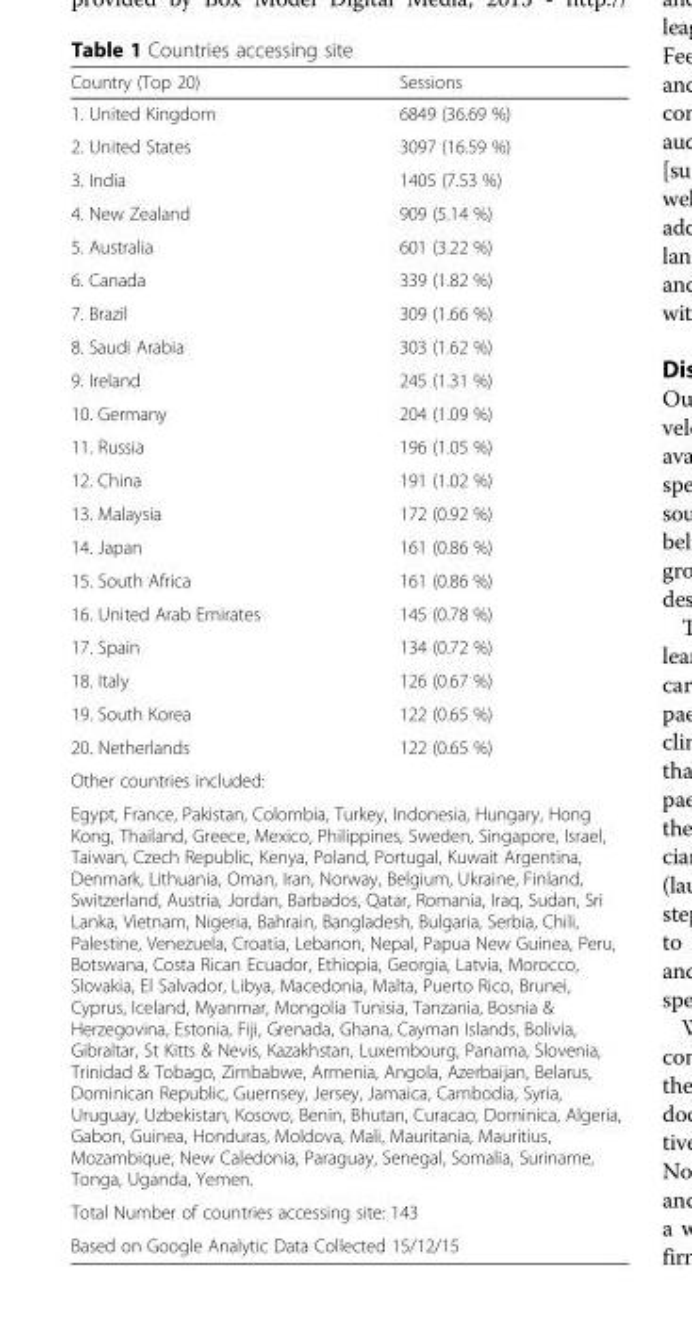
<table><thead><tr><td>Country (Top 20)</td><td>Sessions</td></tr></thead><tbody><tr><td>1. United Kingdom</td><td>6849 (36.69 %)</td></tr><tr><td>2. United States</td><td>3097 (16.59 %)</td></tr><tr><td>3. India</td><td>1405 (7.53 %)</td></tr><tr><td>4. New Zealand</td><td>909 (5.14 %)</td></tr><tr><td>5. Australia</td><td>601 (3.22 %)</td></tr><tr><td>6. Canada</td><td>339 (1.82 %)</td></tr><tr><td>7. Brazil</td><td>309 (1.66 %)</td></tr><tr><td>8. Saudi Arabia</td><td>303 (1.62 %)</td></tr><tr><td>9. Ireland</td><td>245 (1.31 %)</td></tr><tr><td>10. Germany</td><td>204 (1.09 %)</td></tr><tr><td>11. Russia</td><td>196 (1.05 %)</td></tr><tr><td>12. China</td><td>191 (1.02 %)</td></tr><tr><td>13. Malaysia</td><td>172 (0.92 %)</td></tr><tr><td>14. Japan</td><td>161 (0.86 %)</td></tr><tr><td>15. South Africa</td><td>161 (0.86 %)</td></tr><tr><td>16. United Arab Emirates</td><td>145 (0.78 %)</td></tr><tr><td>17. Spain</td><td>134 (0.72 %)</td></tr><tr><td>18. Italy</td><td>126 (0.67 %)</td></tr><tr><td>19. South Korea</td><td>122 (0.65 %)</td></tr><tr><td>20. Netherlands</td><td>122 (0.65 %)</td></tr><tr><td colspan="2">Other countries included:</td></tr><tr><td colspan="2">Egypt, France, Pakistan, Colombia, Turkey, Indonesia, Hungary, Hong Kong, Thailand, Greece, Mexico, Philippines, Sweden, Singapore, Israel, Taiwan, Czech Republic, Kenya, Poland, Portugal, Kuwait Argentina, Denmark, Lithuania, Oman, Iran, Norway, Belgium, Ukraine, Finland, Switzerland, Austria, Jordan, Barbados, Qatar, Romania, Iraq, Sudan, Sri Lanka, Vietnam, Nigeria, Bahrain, Bangladesh, Bulgaria, Serbia, Chili, Palestine, Venezuela, Croatia, Lebanon, Nepal, Papua New Guinea, Peru, Botswana, Costa Rican Ecuador, Ethiopia, Georgia, Latvia, Morocco, Slovakia, El Salvador, Libya, Macedonia, Malta, Puerto Rico, Brunei, Cyprus, Iceland, Myanmar, Mongolia Tunisia, Tanzania, Bosnia &amp; Herzegovina, Estonia, Fiji, Grenada, Ghana, Cayman Islands, Bolivia, Gibraltar, St Kitts &amp; Nevis, Kazakhstan, Luxembourg, Panama, Slovenia, Trinidad &amp; Tobago, Zimbabwe, Armenia, Angola, Azerbaijan, Belarus, Dominican Republic, Guernsey, Jersey, Jamaica, Cambodia, Syria, Uruguay, Uzbekistan, Kosovo, Benin, Bhutan, Curacao, Dominica, Algeria, Gabon, Guinea, Honduras, Moldova, Mali, Mauritania, Mauritius, Mozambique, New Caledonia, Paraguay, Senegal, Somalia, Suriname, Tonga, Uganda, Yemen.</td></tr><tr><td colspan="2">Total Number of countries accessing site: 143</td></tr><tr><td colspan="2">Based on Google Analytic Data Collected 15/12/15</td></tr></tbody></table>